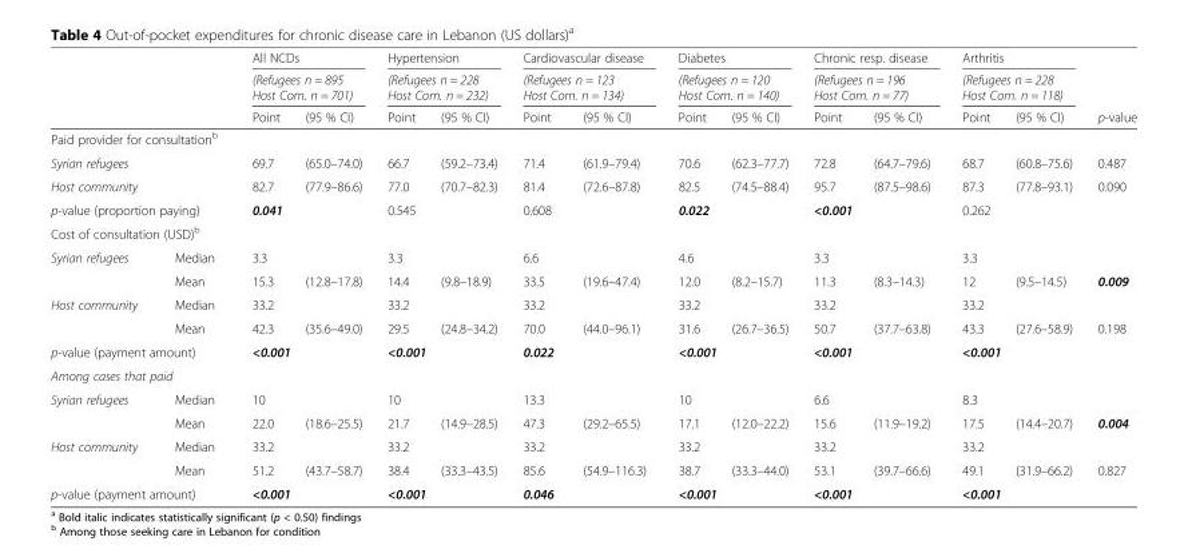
<table><thead><tr><td rowspan="3"></td><td rowspan="3"></td><td rowspan="2" colspan="2">All NCDs (Refugees n = 895 Host Com. n = 701)</td><td rowspan="2" colspan="2">Hypertension (Refugees n = 228 Host Com. n = 232)</td><td rowspan="2" colspan="2">Cardiovascular disease (Refugees n = 123 Host Com. n = 134)</td><td rowspan="2" colspan="2">Diabetes (Refugees n = 120 Host Com. n = 140)</td><td rowspan="2" colspan="2">Chronic resp. disease (Refugees n = 196 Host Com. n = 77)</td><td rowspan="2" colspan="2">Arthritis (Refugees n = 228 Host Com. n = 118)</td><td rowspan="3">p-value</td></tr><tr></tr><tr><td>Point</td><td>(95 % CI)</td><td>Point</td><td>(95 % CI)</td><td>Point</td><td>(95 % CI)</td><td>Point</td><td>(95 % CI)</td><td>Point</td><td>(95 % CI)</td><td>Point</td><td>(95 % CI)</td></tr></thead><tbody><tr><td colspan="15">Paid provider for consultation<sup>b</sup></td></tr><tr><td colspan="2">Syrian refugees</td><td>69.7</td><td>(65.0–74.0)</td><td>66.7</td><td>(59.2–73.4)</td><td>71.4</td><td>(61.9–79.4)</td><td>70.6</td><td>(62.3–77.7)</td><td>72.8</td><td>(64.7–79.6)</td><td>68.7</td><td>(60.8–75.6)</td><td>0.487</td></tr><tr><td colspan="2">Host community</td><td>82.7</td><td>(77.9–86.6)</td><td>77.0</td><td>(70.7–82.3)</td><td>81.4</td><td>(72.6–87.8)</td><td>82.5</td><td>(74.5–88.4)</td><td>95.7</td><td>(87.5–98.6)</td><td>87.3</td><td>(77.8–93.1)</td><td>0.090</td></tr><tr><td colspan="2">p-value (proportion paying)</td><td colspan="2">0.041</td><td colspan="2">0.545</td><td colspan="2">0.608</td><td colspan="2">0.022</td><td colspan="2">&lt;0.001</td><td colspan="2">0.262</td><td></td></tr><tr><td colspan="15">Cost of consultation (USD)<sup>b</sup></td></tr><tr><td rowspan="2">Syrian refugees</td><td>Median</td><td>3.3</td><td></td><td>3.3</td><td></td><td>6.6</td><td></td><td>4.6</td><td></td><td>3.3</td><td></td><td>3.3</td><td></td><td></td></tr><tr><td>Mean</td><td>15.3</td><td>(12.8–17.8)</td><td>14.4</td><td>(9.8–18.9)</td><td>33.5</td><td>(19.6–47.4)</td><td>12.0</td><td>(8.2–15.7)</td><td>11.3</td><td>(8.3–14.3)</td><td>12</td><td>(9.5–14.5)</td><td>0.009</td></tr><tr><td rowspan="2">Host community</td><td>Median</td><td>33.2</td><td></td><td>33.2</td><td></td><td>33.2</td><td></td><td>33.2</td><td></td><td>33.2</td><td></td><td>33.2</td><td></td><td></td></tr><tr><td>Mean</td><td>42.3</td><td>(35.6–49.0)</td><td>29.5</td><td>(24.8–34.2)</td><td>70.0</td><td>(44.0–96.1)</td><td>31.6</td><td>(26.7–36.5)</td><td>50.7</td><td>(37.7–63.8)</td><td>43.3</td><td>(27.6–58.9)</td><td>0.198</td></tr><tr><td colspan="2">p-value (payment amount)</td><td colspan="2">&lt;0.001</td><td colspan="2">&lt;0.001</td><td colspan="2">0.022</td><td colspan="2">&lt;0.001</td><td colspan="2">&lt;0.001</td><td colspan="2">&lt;0.001</td><td></td></tr><tr><td colspan="15">Among cases that paid</td></tr><tr><td rowspan="2">Syrian refugees</td><td>Median</td><td>10</td><td></td><td>10</td><td></td><td>13.3</td><td></td><td>10</td><td></td><td>6.6</td><td></td><td>8.3</td><td></td><td></td></tr><tr><td>Mean</td><td>22.0</td><td>(18.6–25.5)</td><td>21.7</td><td>(14.9–28.5)</td><td>47.3</td><td>(29.2–65.5)</td><td>17.1</td><td>(12.0–22.2)</td><td>15.6</td><td>(11.9–19.2)</td><td>17.5</td><td>(14.4–20.7)</td><td>0.004</td></tr><tr><td rowspan="2">Host community</td><td>Median</td><td>33.2</td><td></td><td>33.2</td><td></td><td>33.2</td><td></td><td>33.2</td><td></td><td>33.2</td><td></td><td>33.2</td><td></td><td></td></tr><tr><td>Mean</td><td>51.2</td><td>(43.7–58.7)</td><td>38.4</td><td>(33.3–43.5)</td><td>85.6</td><td>(54.9–116.3)</td><td>38.7</td><td>(33.3–44.0)</td><td>53.1</td><td>(39.7–66.6)</td><td>49.1</td><td>(31.9–66.2)</td><td>0.827</td></tr><tr><td colspan="2">p-value (payment amount)</td><td colspan="2">&lt;0.001</td><td colspan="2">&lt;0.001</td><td colspan="2">0.046</td><td colspan="2">&lt;0.001</td><td colspan="2">&lt;0.001</td><td colspan="2">&lt;0.001</td><td></td></tr></tbody></table>